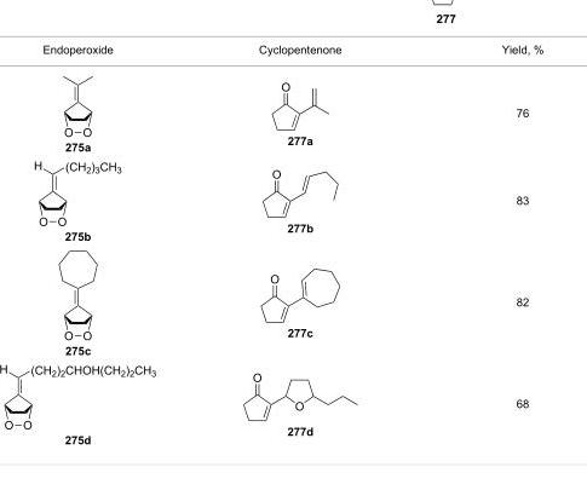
<table><tbody><tr><td>Endoperoxide</td><td>Cyclopentenone</td><td>Yield, %</td></tr><tr><td>275a</td><td>277a</td><td>76</td></tr><tr><td>275b</td><td>277b</td><td>83</td></tr><tr><td>275c</td><td>277c</td><td>82</td></tr><tr><td>275d</td><td>277d</td><td>68</td></tr></tbody></table>